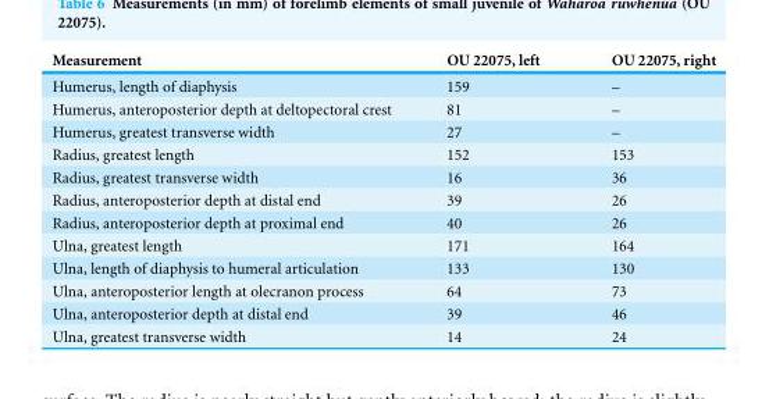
<table><thead><tr><td>Measurement</td><td>OU 22075, left</td><td>OU 22075, right</td></tr></thead><tbody><tr><td>Humerus, length of diaphysis</td><td>159</td><td>–</td></tr><tr><td>Humerus, anteroposterior depth at deltopectoral crest</td><td>81</td><td>–</td></tr><tr><td>Humerus, greatest transverse width</td><td>27</td><td>–</td></tr><tr><td>Radius, greatest length</td><td>152</td><td>153</td></tr><tr><td>Radius, greatest transverse width</td><td>16</td><td>36</td></tr><tr><td>Radius, anteroposterior depth at distal end</td><td>39</td><td>26</td></tr><tr><td>Radius, anteroposterior depth at proximal end</td><td>40</td><td>26</td></tr><tr><td>Ulna, greatest length</td><td>171</td><td>164</td></tr><tr><td>Ulna, length of diaphysis to humeral articulation</td><td>133</td><td>130</td></tr><tr><td>Ulna, anteroposterior length at olecranon process</td><td>64</td><td>73</td></tr><tr><td>Ulna, anteroposterior depth at distal end</td><td>39</td><td>46</td></tr><tr><td>Ulna, greatest transverse width</td><td>14</td><td>24</td></tr></tbody></table>